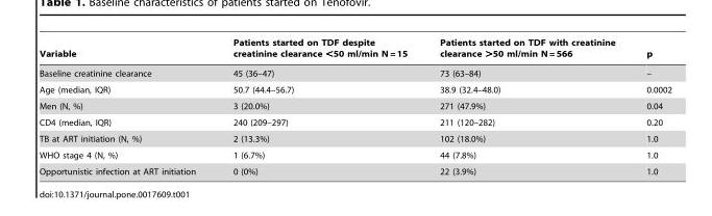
<table><thead><tr><td>Variable</td><td>Patients started on TDF despite creatinine clearance &lt;50 ml/min N = 15</td><td>Patients started on TDF with creatinine clearance &gt;50 ml/min N = 566</td><td>p</td></tr></thead><tbody><tr><td>Baseline creatinine clearance</td><td>45 (36–47)</td><td>73 (63–84)</td><td>–</td></tr><tr><td>Age (median, IQR)</td><td>50.7 (44.4–56.7)</td><td>38.9 (32.4–48.0)</td><td>0.0002</td></tr><tr><td>Men (N, %)</td><td>3 (20.0%)</td><td>271 (47.9%)</td><td>0.04</td></tr><tr><td>CD4 (median, IQR)</td><td>240 (209–297)</td><td>211 (120–282)</td><td>0.20</td></tr><tr><td>TB at ART initiation (N, %)</td><td>2 (13.3%)</td><td>102 (18.0%)</td><td>1.0</td></tr><tr><td>WHO stage 4 (N, %)</td><td>1 (6.7%)</td><td>44 (7.8%)</td><td>1.0</td></tr><tr><td>Opportunistic infection at ART initiation</td><td>0 (0%)</td><td>22 (3.9%)</td><td>1.0</td></tr></tbody></table>